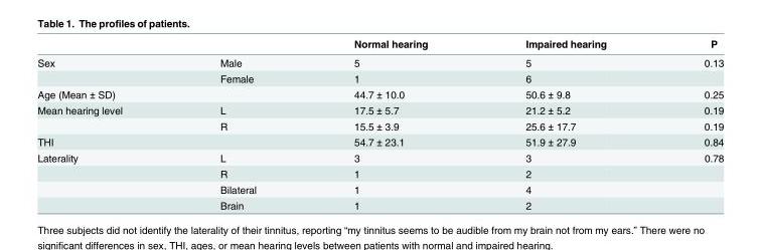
<table><thead><tr><td></td><td></td><td>Normal hearing</td><td>Impaired hearing</td><td>P</td></tr></thead><tbody><tr><td rowspan="2">Sex</td><td>Male</td><td>5</td><td>5</td><td>0.13</td></tr><tr><td>Female</td><td>1</td><td>6</td><td></td></tr><tr><td>Age (Mean ± SD)</td><td></td><td>44.7 ± 10.0</td><td>50.6 ± 9.8</td><td>0.25</td></tr><tr><td rowspan="2">Mean hearing level</td><td>L</td><td>17.5 ± 5.7</td><td>21.2 ± 5.2</td><td>0.19</td></tr><tr><td>R</td><td>15.5 ± 3.9</td><td>25.6 ± 17.7</td><td>0.19</td></tr><tr><td>THI</td><td></td><td>54.7 ± 23.1</td><td>51.9 ± 27.9</td><td>0.84</td></tr><tr><td rowspan="4">Laterality</td><td>L</td><td>3</td><td>3</td><td>0.78</td></tr><tr><td>R</td><td>1</td><td>2</td><td></td></tr><tr><td>Bilateral</td><td>1</td><td>4</td><td></td></tr><tr><td>Brain</td><td>1</td><td>2</td><td></td></tr></tbody></table>